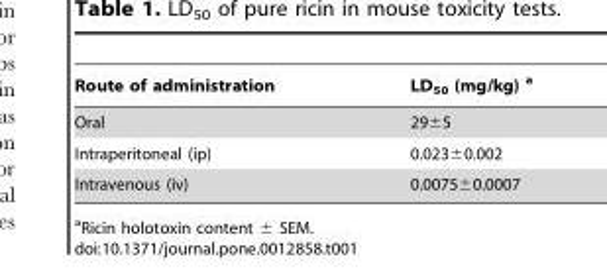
<table><thead><tr><td>Route of administration</td><td>LD<sub>50</sub> (mg/kg) a</td></tr></thead><tbody><tr><td>Oral</td><td>29±5</td></tr><tr><td>Intraperitoneal (ip)</td><td>0.023±0.002</td></tr><tr><td>Intravenous (iv)</td><td>0.0075±0.0007</td></tr></tbody></table>